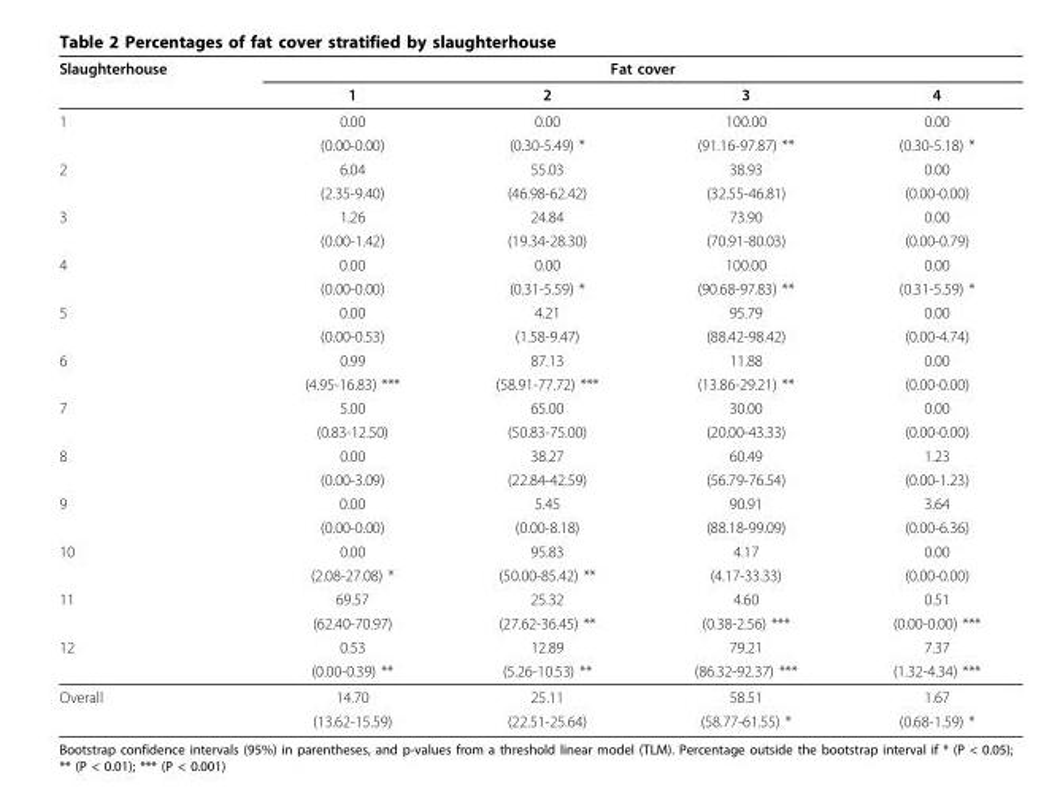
<table><thead><tr><td rowspan="2">Slaughterhouse</td><td colspan="4">Fat cover</td></tr><tr><td>1</td><td>2</td><td>3</td><td>4</td></tr></thead><tbody><tr><td rowspan="2">1</td><td>0.00</td><td>0.00</td><td>100.00</td><td>0.00</td></tr><tr><td>(0.00-0.00)</td><td>(0.30-5.49) *</td><td>(91.16-97.87) **</td><td>(0.30-5.18) *</td></tr><tr><td rowspan="2">2</td><td>6.04</td><td>55.03</td><td>38.93</td><td>0.00</td></tr><tr><td>(2.35-9.40)</td><td>(46.98-62.42)</td><td>(32.55-46.81)</td><td>(0.00-0.00)</td></tr><tr><td rowspan="2">3</td><td>1.26</td><td>24.84</td><td>73.90</td><td>0.00</td></tr><tr><td>(0.00-1.42)</td><td>(19.34-28.30)</td><td>(70.91-80.03)</td><td>(0.00-0.79)</td></tr><tr><td rowspan="2">4</td><td>0.00</td><td>0.00</td><td>100.00</td><td>0.00</td></tr><tr><td>(0.00-0.00)</td><td>(0.31-5.59) *</td><td>(90.68-97.83) **</td><td>(0.31-5.59) *</td></tr><tr><td rowspan="2">5</td><td>0.00</td><td>4.21</td><td>95.79</td><td>0.00</td></tr><tr><td>(0.00-0.53)</td><td>(1.58-9.47)</td><td>(88.42-98.42)</td><td>(0.00-4.74)</td></tr><tr><td rowspan="2">6</td><td>0.99</td><td>87.13</td><td>11.88</td><td>0.00</td></tr><tr><td>(4.95-16.83) ***</td><td>(58.91-77.72) ***</td><td>(13.86-29.21) **</td><td>(0.00-0.00)</td></tr><tr><td rowspan="2">7</td><td>5.00</td><td>65.00</td><td>30.00</td><td>0.00</td></tr><tr><td>(0.83-12.50)</td><td>(50.83-75.00)</td><td>(20.00-43.33)</td><td>(0.00-0.00)</td></tr><tr><td rowspan="2">8</td><td>0.00</td><td>38.27</td><td>60.49</td><td>1.23</td></tr><tr><td>(0.00-3.09)</td><td>(22.84-42.59)</td><td>(56.79-76.54)</td><td>(0.00-1.23)</td></tr><tr><td rowspan="2">9</td><td>0.00</td><td>5.45</td><td>90.91</td><td>3.64</td></tr><tr><td>(0.00-0.00)</td><td>(0.00-8.18)</td><td>(88.18-99.09)</td><td>(0.00-6.36)</td></tr><tr><td rowspan="2">10</td><td>0.00</td><td>95.83</td><td>4.17</td><td>0.00</td></tr><tr><td>(2.08-27.08) *</td><td>(50.00-85.42) **</td><td>(4.17-33.33)</td><td>(0.00-0.00)</td></tr><tr><td rowspan="2">11</td><td>69.57</td><td>25.32</td><td>4.60</td><td>0.51</td></tr><tr><td>(62.40-70.97)</td><td>(27.62-36.45) **</td><td>(0.38-2.56) ***</td><td>(0.00-0.00) ***</td></tr><tr><td rowspan="2">12</td><td>0.53</td><td>12.89</td><td>79.21</td><td>7.37</td></tr><tr><td>(0.00-0.39) **</td><td>(5.26-10.53) **</td><td>(86.32-92.37) ***</td><td>(1.32-4.34) ***</td></tr><tr><td rowspan="2">Overall</td><td>14.70</td><td>25.11</td><td>58.51</td><td>1.67</td></tr><tr><td>(13.62-15.59)</td><td>(22.51-25.64)</td><td>(58.77-61.55) *</td><td>(0.68-1.59) *</td></tr></tbody></table>